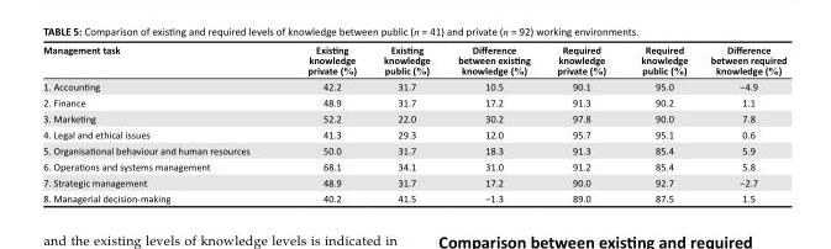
<table><thead><tr><td>Management task</td><td>Existing knowledge private (%)</td><td>Existing knowledge public (%)</td><td>Difference between existing knowledge (%)</td><td>Required knowledge private (%)</td><td>Required knowledge public (%)</td><td>Difference between required knowledge (%)</td></tr></thead><tbody><tr><td>1. Accounting</td><td>42.2</td><td>31.7</td><td>10.5</td><td>90.1</td><td>95.0</td><td>−4.9</td></tr><tr><td>2. Finance</td><td>48.9</td><td>31.7</td><td>17.2</td><td>91.3</td><td>90.2</td><td>1.1</td></tr><tr><td>3. Marketing</td><td>52.2</td><td>22.0</td><td>30.2</td><td>97.8</td><td>90.0</td><td>7.8</td></tr><tr><td>4. Legal and ethical issues</td><td>41.3</td><td>29.3</td><td>12.0</td><td>95.7</td><td>95.1</td><td>0.6</td></tr><tr><td>5. Organisational behaviour and human resources</td><td>50.0</td><td>31.7</td><td>18.3</td><td>91.3</td><td>85.4</td><td>5.9</td></tr><tr><td>6. Operations and systems management</td><td>68.1</td><td>34.1</td><td>31.0</td><td>91.2</td><td>85.4</td><td>5.8</td></tr><tr><td>7. Strategic management</td><td>48.9</td><td>31.7</td><td>17.2</td><td>90.0</td><td>92.7</td><td>−2.7</td></tr><tr><td>8. Managerial decision-making</td><td>40.2</td><td>41.5</td><td>−1.3</td><td>89.0</td><td>87.5</td><td>1.5</td></tr></tbody></table>